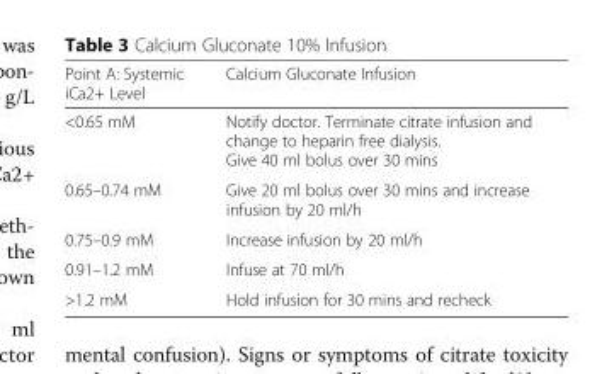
<table><thead><tr><td>Point A: Systemic iCa2+ Level</td><td>Calcium Gluconate Infusion</td></tr></thead><tbody><tr><td>&lt;0.65 mM</td><td>Notify doctor. Terminate citrate infusion and change to heparin free dialysis. Give 40 ml bolus over 30 mins</td></tr><tr><td>0.65–0.74 mM</td><td>Give 20 ml bolus over 30 mins and increase infusion by 20 ml/h</td></tr><tr><td>0.75–0.9 mM</td><td>Increase infusion by 20 ml/h</td></tr><tr><td>0.91–1.2 mM</td><td>Infuse at 70 ml/h</td></tr><tr><td>&gt;1.2 mM</td><td>Hold infusion for 30 mins and recheck</td></tr></tbody></table>